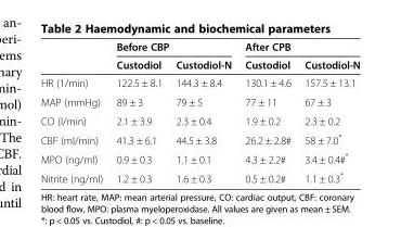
<table><thead><tr><td rowspan="2"></td><td colspan="2">Before CBP</td><td colspan="2">After CPB</td></tr><tr><td>Custodiol</td><td>Custodiol-N</td><td>Custodiol</td><td>Custodiol-N</td></tr></thead><tbody><tr><td>HR (1/min)</td><td>122.5 ± 8.1</td><td>144.3 ± 8.4</td><td>130.1 ± 4.6</td><td>157.5 ± 13.1</td></tr><tr><td>MAP (mmHg)</td><td>89 ± 3</td><td>79 ± 5</td><td>77 ± 11</td><td>67 ± 3</td></tr><tr><td>CO (l/min)</td><td>2.1 ± 3.9</td><td>2.3 ± 0.4</td><td>1.9 ± 0.2</td><td>2.3 ± 0.2</td></tr><tr><td>CBF (ml/min)</td><td>41.3 ± 6.1</td><td>44.5 ± 3.8</td><td>26.2 ± 2.8#</td><td>58 ± 7.0*</td></tr><tr><td>MPO (ng/ml)</td><td>0.9 ± 0.3</td><td>1.1 ± 0.1</td><td>4.3 ± 2.2#</td><td>3.4 ± 0.4#*</td></tr><tr><td>Nitrite (ng/ml)</td><td>1.2 ± 0.3</td><td>1.6 ± 0.3</td><td>0.5 ± 0.2#</td><td>1.1 ± 0.3*</td></tr></tbody></table>